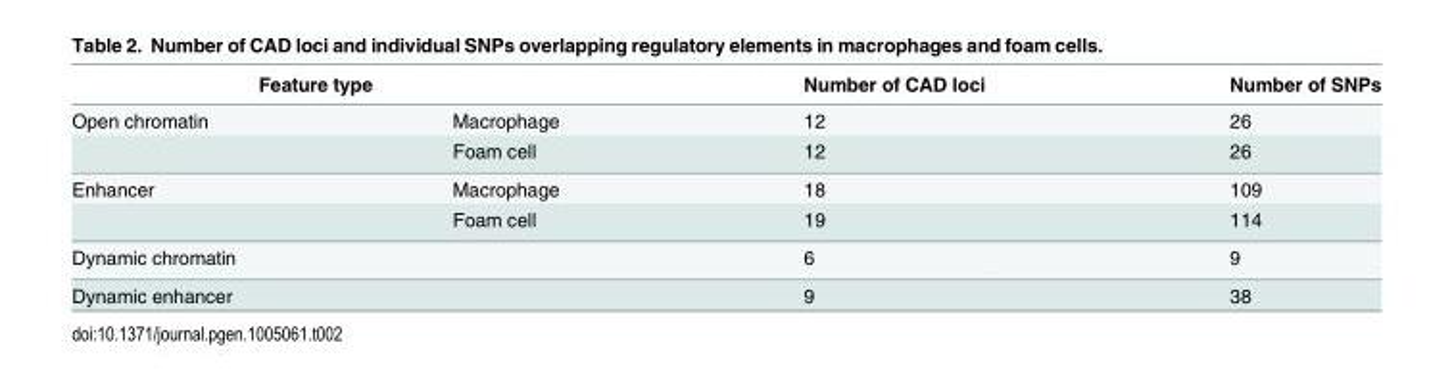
<table><thead><tr><td colspan="2">Feature type</td><td rowspan="2">Number of CAD loci 12</td><td rowspan="2">Number of SNPs 26</td></tr><tr><td>Open chromatin</td><td>Macrophage</td></tr></thead><tbody><tr><td></td><td>Foam cell</td><td>12</td><td>26</td></tr><tr><td rowspan="2">Enhancer</td><td>Macrophage</td><td>18</td><td>109</td></tr><tr><td>Foam cell</td><td>19</td><td>114</td></tr><tr><td colspan="2">Dynamic chromatin</td><td>6</td><td>9</td></tr><tr><td colspan="2">Dynamic enhancer</td><td>9</td><td>38</td></tr></tbody></table>